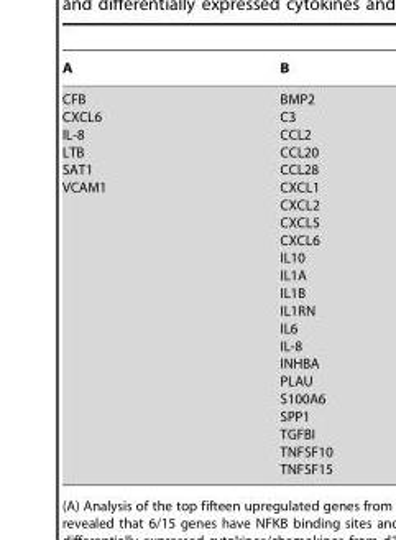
<table><thead><tr><td>A</td><td>B</td></tr></thead><tbody><tr><td>CFB CXCL6 IL-8 LTB SAT1 VCAM1</td><td>BMP2 C3 CCL2 CCL20 CCL28 CXCL1 CXCL2 CXCL5 CXCL6 IL10 IL1A IL1B IL1RN IL6 IL-8 INHBA PLAU S100A6 SPP1 TGFBI TNFSF10 TNFSF15</td></tr></tbody></table>